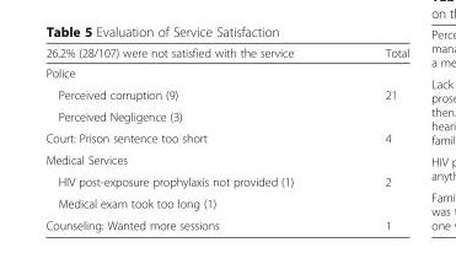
<table><thead><tr><td>26.2% (28/107) were not satisfied with the service</td><td>Total</td></tr></thead><tbody><tr><td colspan="2">Police</td></tr><tr><td>Perceived corruption (9)</td><td>21</td></tr><tr><td colspan="2">Perceived Negligence (3)</td></tr><tr><td>Court: Prison sentence too short</td><td>4</td></tr><tr><td colspan="2">Medical Services</td></tr><tr><td>HIV post-exposure prophylaxis not provided (1)</td><td>2</td></tr><tr><td colspan="2">Medical exam took too long (1)</td></tr><tr><td>Counseling: Wanted more sessions</td><td>1</td></tr></tbody></table>